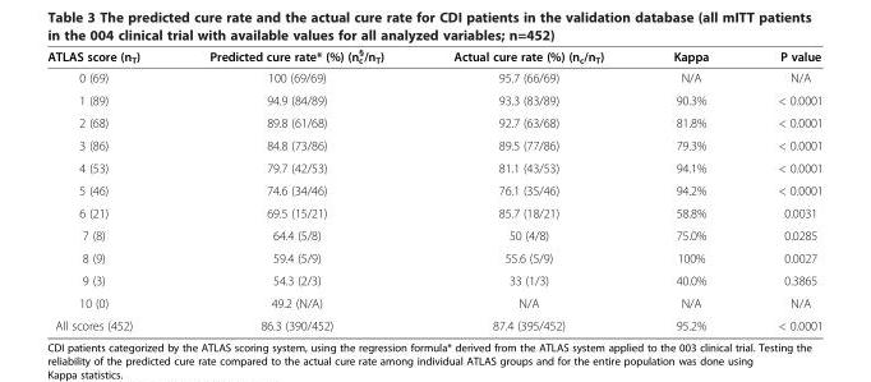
<table><thead><tr><td>ATLAS score (n<sub>T</sub>)</td><td>Predicted cure rate* (%) (n<sub>c</sub> <sup>§</sup>/n<sub>T</sub>)</td><td>Actual cure rate (%) (n<sub>c</sub>/n<sub>T</sub>)</td><td>Kappa</td><td>P value</td></tr></thead><tbody><tr><td>0 (69)</td><td>100 (69/69)</td><td>95.7 (66/69)</td><td>N/A</td><td>N/A</td></tr><tr><td>1 (89)</td><td>94.9 (84/89)</td><td>93.3 (83/89)</td><td>90.3%</td><td>&lt; 0.0001</td></tr><tr><td>2 (68)</td><td>89.8 (61/68)</td><td>92.7 (63/68)</td><td>81.8%</td><td>&lt; 0.0001</td></tr><tr><td>3 (86)</td><td>84.8 (73/86)</td><td>89.5 (77/86)</td><td>79.3%</td><td>&lt; 0.0001</td></tr><tr><td>4 (53)</td><td>79.7 (42/53)</td><td>81.1 (43/53)</td><td>94.1%</td><td>&lt; 0.0001</td></tr><tr><td>5 (46)</td><td>74.6 (34/46)</td><td>76.1 (35/46)</td><td>94.2%</td><td>&lt; 0.0001</td></tr><tr><td>6 (21)</td><td>69.5 (15/21)</td><td>85.7 (18/21)</td><td>58.8%</td><td>0.0031</td></tr><tr><td>7 (8)</td><td>64.4 (5/8)</td><td>50 (4/8)</td><td>75.0%</td><td>0.0285</td></tr><tr><td>8 (9)</td><td>59.4 (5/9)</td><td>55.6 (5/9)</td><td>100%</td><td>0.0027</td></tr><tr><td>9 (3)</td><td>54.3 (2/3)</td><td>33 (1/3)</td><td>40.0%</td><td>0.3865</td></tr><tr><td>10 (0)</td><td>49.2 (N/A)</td><td>N/A</td><td>N/A</td><td>N/A</td></tr><tr><td>All scores (452)</td><td>86.3 (390/452)</td><td>87.4 (395/452)</td><td>95.2%</td><td>&lt; 0.0001</td></tr></tbody></table>